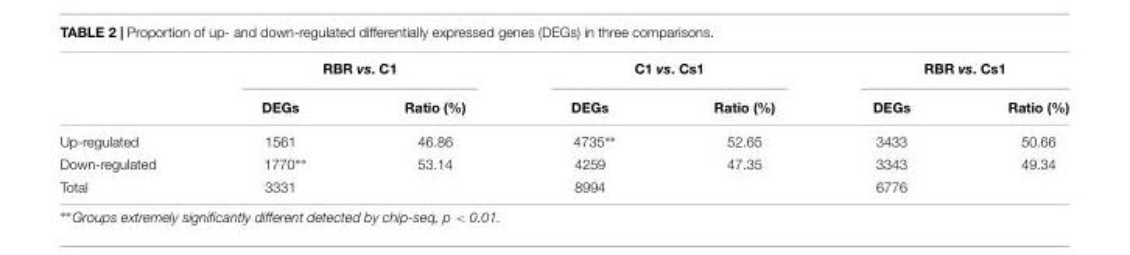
<table><thead><tr><td rowspan="2"></td><td colspan="2">RBR vs. C1</td><td colspan="2">C1 vs. Cs1</td><td colspan="2">RBR vs. Cs1</td></tr><tr><td>DEGs</td><td>Ratio (%)</td><td>DEGs</td><td>Ratio (%)</td><td>DEGs</td><td>Ratio (%)</td></tr></thead><tbody><tr><td>Up-regulated</td><td>1561</td><td>46.86</td><td>4735∗∗</td><td>52.65</td><td>3433</td><td>50.66</td></tr><tr><td>Down-regulated</td><td>1770∗∗</td><td>53.14</td><td>4259</td><td>47.35</td><td>3343</td><td>49.34</td></tr><tr><td>Total</td><td>3331</td><td></td><td>8994</td><td></td><td>6776</td><td></td></tr></tbody></table>